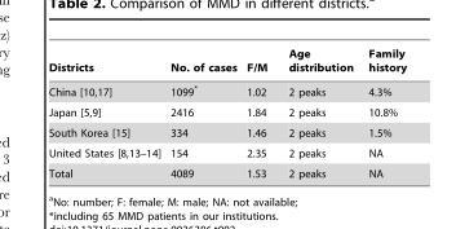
<table><thead><tr><td>Districts</td><td>No. of cases</td><td>F/M</td><td>Age distribution</td><td>Family history</td></tr></thead><tbody><tr><td>China [10,17]</td><td>1099*</td><td>1.02</td><td>2 peaks</td><td>4.3%</td></tr><tr><td>Japan [5,9]</td><td>2416</td><td>1.84</td><td>2 peaks</td><td>10.8%</td></tr><tr><td>South Korea [15]</td><td>334</td><td>1.46</td><td>2 peaks</td><td>1.5%</td></tr><tr><td>United States [8,13–14]</td><td>154</td><td>2.35</td><td>2 peaks</td><td>NA</td></tr><tr><td>Total</td><td>4089</td><td>1.53</td><td>2 peaks</td><td>NA</td></tr></tbody></table>